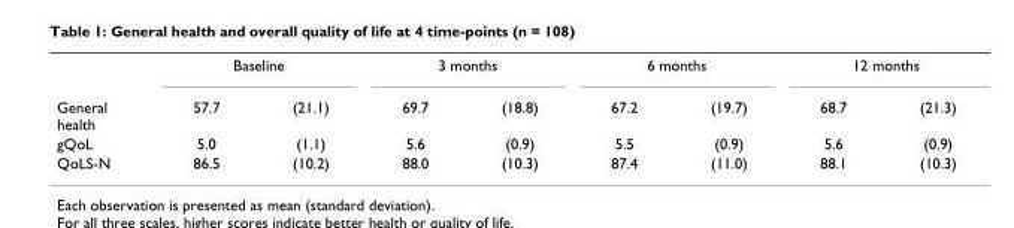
<table><thead><tr><td rowspan="2">General health</td><td colspan="2">Baseline</td><td colspan="2">3 months</td><td colspan="2">6 months</td><td colspan="2">12 months</td></tr><tr><td>57.7</td><td>(21.1)</td><td>69.7</td><td>(18.8)</td><td>67.2</td><td>(19.7)</td><td>68.7</td><td>(21.3)</td></tr></thead><tbody><tr><td>gQoL</td><td>5.0</td><td>(1.1)</td><td>5.6</td><td>(0.9)</td><td>5.5</td><td>(0.9)</td><td>5.6</td><td>(0.9)</td></tr><tr><td>QoLS-N</td><td>86.5</td><td>(10.2)</td><td>88.0</td><td>(10.3)</td><td>87.4</td><td>(11.0)</td><td>88.1</td><td>(10.3)</td></tr></tbody></table>